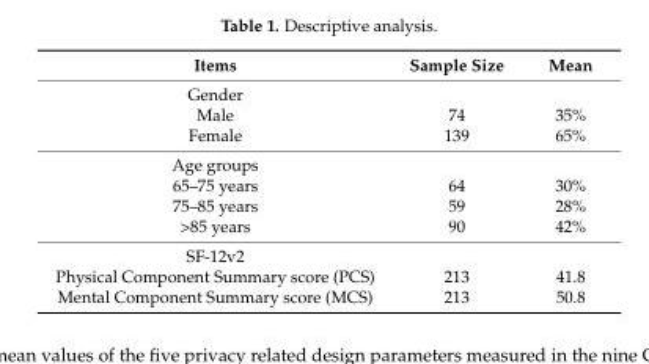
<table><thead><tr><td>Items</td><td>Sample Size</td><td>Mean</td></tr></thead><tbody><tr><td colspan="3">Gender</td></tr><tr><td>Male</td><td>74</td><td>35%</td></tr><tr><td>Female</td><td>139</td><td>65%</td></tr><tr><td colspan="3">Age groups</td></tr><tr><td>65–75 years</td><td>64</td><td>30%</td></tr><tr><td>75–85 years</td><td>59</td><td>28%</td></tr><tr><td>&gt;85 years</td><td>90</td><td>42%</td></tr><tr><td colspan="3">SF-12v2</td></tr><tr><td>Physical Component Summary score (PCS)</td><td>213</td><td>41.8</td></tr><tr><td>Mental Component Summary score (MCS)</td><td>213</td><td>50.8</td></tr></tbody></table>